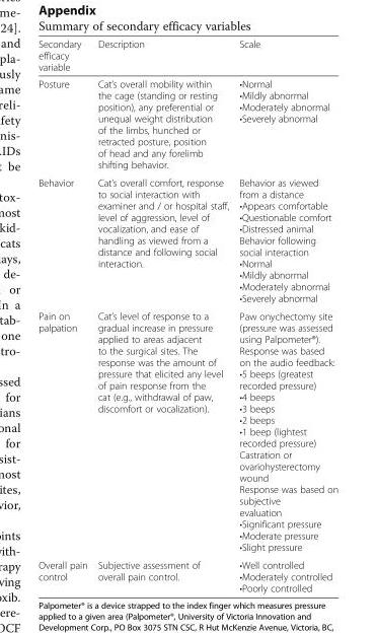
<table><thead><tr><td>Secondary efficacy variable</td><td>Description</td><td>Scale</td></tr></thead><tbody><tr><td>Posture</td><td>Cat’s overall mobility within the cage (standing or resting position), any preferential or unequal weight distribution of the limbs, hunched or retracted posture, position of head and any forelimb shifting behavior.</td><td>•Normal •Mildly abnormal •Moderately abnormal •Severely abnormal</td></tr><tr><td>Behavior</td><td>Cat’s overall comfort, response to social interaction with examiner and / or hospital staff, level of aggression, level of vocalization, and ease of handling as viewed from a distance and following social interaction.</td><td>Behavior as viewed from a distance •Appears comfortable •Questionable comfort •Distressed animal Behavior following social interaction •Normal •Mildly abnormal •Moderately abnormal •Severely abnormal</td></tr><tr><td>Pain on palpation</td><td>Cat’s level of response to a gradual increase in pressure applied to areas adjacent to the surgical sites. The response was the amount of pressure that elicited any level of pain response from the cat (e.g., withdrawal of paw, discomfort or vocalization).</td><td>Paw onychectomy site (pressure was assessed using Palpometer®). Response was based on the audio feedback: •5 beeps (greatest recorded pressure) •4 beeps •3 beeps •2 beeps •1 beep (lightest recorded pressure) Castration or ovariohysterectomy wound Response was based on subjective evaluation •Significant pressure •Moderate pressure •Slight pressure</td></tr><tr><td>Overall pain control</td><td>Subjective assessment of overall pain control.</td><td>•Well controlled •Moderately controlled •Poorly controlled</td></tr></tbody></table>